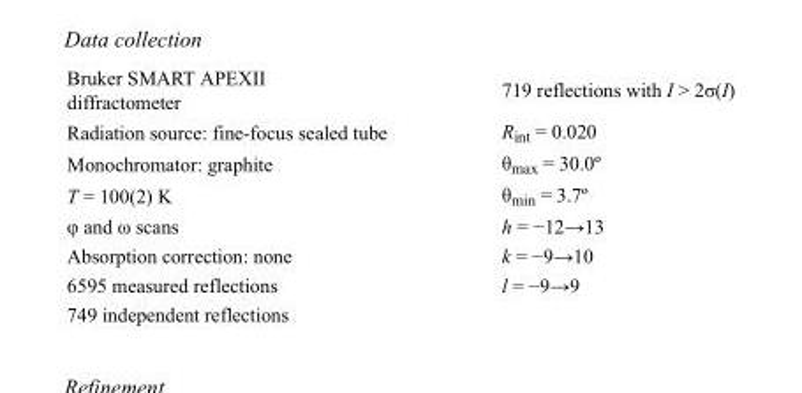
<table><tbody><tr><td>Bruker SMART APEXII diffractometer</td><td>719 reflections with I &gt; 2σ(I)</td></tr><tr><td>Radiation source: fine-focus sealed tube</td><td>R<sub>int</sub> = 0.020</td></tr><tr><td>Monochromator: graphite</td><td>θ<sub>max</sub> = 30.0º</td></tr><tr><td>T = 100(2) K</td><td>θ<sub>min</sub> = 3.7º</td></tr><tr><td>φ and ω scans</td><td>h = −12→13</td></tr><tr><td>Absorption correction: none</td><td>k = −9→10</td></tr><tr><td>6595 measured reflections</td><td>l = −9→9</td></tr><tr><td>749 independent reflections</td><td></td></tr></tbody></table>